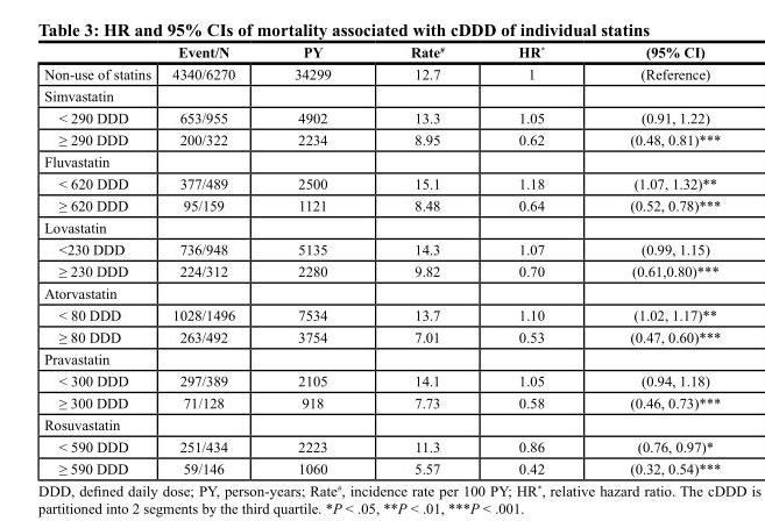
<table><thead><tr><td></td><td>event/n</td><td>PY</td><td>rate<sup>#</sup></td><td>Hr*</td><td>(95% cI)</td></tr></thead><tbody><tr><td>Non-use of statins</td><td>4340/6270</td><td>34299</td><td>12.7</td><td>1</td><td>(Reference)</td></tr><tr><td colspan="6">Simvastatin</td></tr><tr><td>&lt; 290 DDD</td><td>653/955</td><td>4902</td><td>13.3</td><td>1.05</td><td>(0.91, 1.22)</td></tr><tr><td>≥ 290 DDD</td><td>200/322</td><td>2234</td><td>8.95</td><td>0.62</td><td>(0.48, 0.81)***</td></tr><tr><td colspan="6">Fluvastatin</td></tr><tr><td>&lt; 620 DDD</td><td>377/489</td><td>2500</td><td>15.1</td><td>1.18</td><td>(1.07, 1.32)**</td></tr><tr><td>≥ 620 DDD</td><td>95/159</td><td>1121</td><td>8.48</td><td>0.64</td><td>(0.52, 0.78)***</td></tr><tr><td colspan="6">Lovastatin</td></tr><tr><td>&lt;230 DDD</td><td>736/948</td><td>5135</td><td>14.3</td><td>1.07</td><td>(0.99, 1.15)</td></tr><tr><td>≥ 230 DDD</td><td>224/312</td><td>2280</td><td>9.82</td><td>0.70</td><td>(0.61,0.80)***</td></tr><tr><td colspan="6">Atorvastatin</td></tr><tr><td>&lt; 80 DDD</td><td>1028/1496</td><td>7534</td><td>13.7</td><td>1.10</td><td>(1.02, 1.17)**</td></tr><tr><td>≥ 80 DDD</td><td>263/492</td><td>3754</td><td>7.01</td><td>0.53</td><td>(0.47, 0.60)***</td></tr><tr><td colspan="6">Pravastatin</td></tr><tr><td>&lt; 300 DDD</td><td>297/389</td><td>2105</td><td>14.1</td><td>1.05</td><td>(0.94, 1.18)</td></tr><tr><td>≥ 300 DDD</td><td>71/128</td><td>918</td><td>7.73</td><td>0.58</td><td>(0.46, 0.73)***</td></tr><tr><td colspan="6">Rosuvastatin</td></tr><tr><td>&lt; 590 DDD</td><td>251/434</td><td>2223</td><td>11.3</td><td>0.86</td><td>(0.76, 0.97)*</td></tr><tr><td>≥ 590 DDD</td><td>59/146</td><td>1060</td><td>5.57</td><td>0.42</td><td>(0.32, 0.54)***</td></tr></tbody></table>